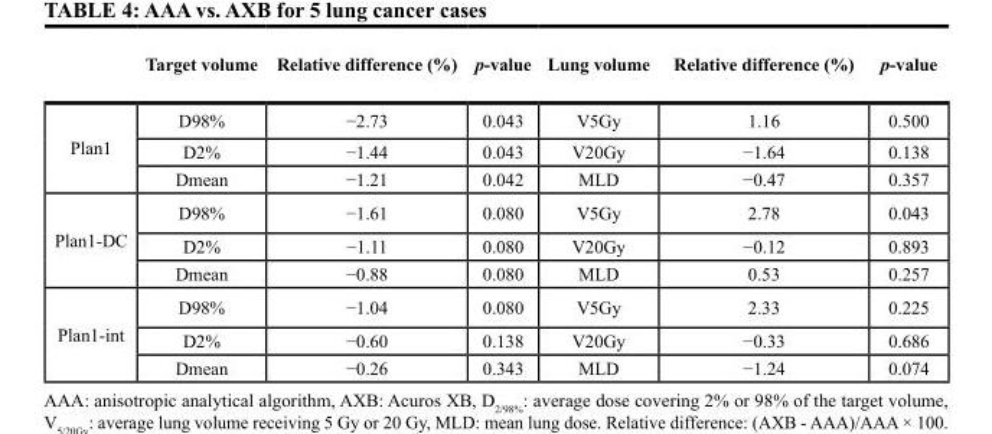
<table><thead><tr><td></td><td>Target volume</td><td>Relative difference (%)</td><td>p-value</td><td>Lung volume</td><td>Relative difference (%)</td><td>p-value</td></tr></thead><tbody><tr><td rowspan="3">Plan1</td><td>D98%</td><td>−2.73</td><td>0.043</td><td>V5Gy</td><td>1.16</td><td>0.500</td></tr><tr><td>D2%</td><td>−1.44</td><td>0.043</td><td>V20Gy</td><td>−1.64</td><td>0.138</td></tr><tr><td>Dmean</td><td>−1.21</td><td>0.042</td><td>MLD</td><td>−0.47</td><td>0.357</td></tr><tr><td rowspan="3">Plan1-DC</td><td>D98%</td><td>−1.61</td><td>0.080</td><td>V5Gy</td><td>2.78</td><td>0.043</td></tr><tr><td>D2%</td><td>−1.11</td><td>0.080</td><td>V20Gy</td><td>−0.12</td><td>0.893</td></tr><tr><td>Dmean</td><td>−0.88</td><td>0.080</td><td>MLD</td><td>0.53</td><td>0.257</td></tr><tr><td rowspan="3">Plan1-int</td><td>D98%</td><td>−1.04</td><td>0.080</td><td>V5Gy</td><td>2.33</td><td>0.225</td></tr><tr><td>D2%</td><td>−0.60</td><td>0.138</td><td>V20Gy</td><td>−0.33</td><td>0.686</td></tr><tr><td>Dmean</td><td>−0.26</td><td>0.343</td><td>MLD</td><td>−1.24</td><td>0.074</td></tr></tbody></table>